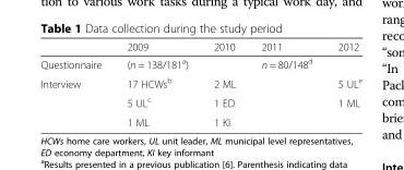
<table><thead><tr><td></td><td>2009</td><td>2010</td><td>2011</td><td>2012</td></tr></thead><tbody><tr><td>Questionnaire</td><td>(n = 138/181<sup>a</sup>)</td><td></td><td>n = 80/148<sup>d</sup></td><td></td></tr><tr><td rowspan="3">Interview</td><td>17 HCWs<sup>b</sup></td><td>2 ML</td><td rowspan="3"></td><td>5 UL<sup>e</sup></td></tr><tr><td>5 UL<sup>c</sup></td><td>1 ED</td><td rowspan="2">1 ML</td></tr><tr><td>1 ML</td><td>1 KI</td></tr></tbody></table>